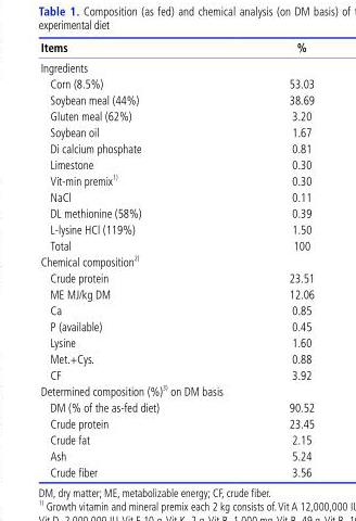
<table><thead><tr><td>Items</td><td>%</td></tr></thead><tbody><tr><td colspan="2">Ingredients</td></tr><tr><td>Corn (8.5%)</td><td>53.03</td></tr><tr><td>Soybean meal (44%)</td><td>38.69</td></tr><tr><td>Gluten meal (62%)</td><td>3.20</td></tr><tr><td>Soybean oil</td><td>1.67</td></tr><tr><td>Di calcium phosphate</td><td>0.81</td></tr><tr><td>Limestone</td><td>0.30</td></tr><tr><td>Vit-min premix 1)</td><td>0.30</td></tr><tr><td>NaCl</td><td>0.11</td></tr><tr><td>DL methionine (58%)</td><td>0.39</td></tr><tr><td>L-lysine HCl (119%)</td><td>1.50</td></tr><tr><td>Total</td><td>100</td></tr><tr><td colspan="2">Chemical composition 2)</td></tr><tr><td>Crude protein</td><td>23.51</td></tr><tr><td>ME MJ/kg DM</td><td>12.06</td></tr><tr><td>Ca</td><td>0.85</td></tr><tr><td>P (available)</td><td>0.45</td></tr><tr><td>Lysine</td><td>1.60</td></tr><tr><td>Met.+Cys.</td><td>0.88</td></tr><tr><td>CF</td><td>3.92</td></tr><tr><td colspan="2">Determined composition (%) 3) on DM basis</td></tr><tr><td>DM (% of the as-fed diet)</td><td>90.52</td></tr><tr><td>Crude protein</td><td>23.45</td></tr><tr><td>Crude fat</td><td>2.15</td></tr><tr><td>Ash</td><td>5.24</td></tr><tr><td>Crude fiber</td><td>3.56</td></tr></tbody></table>